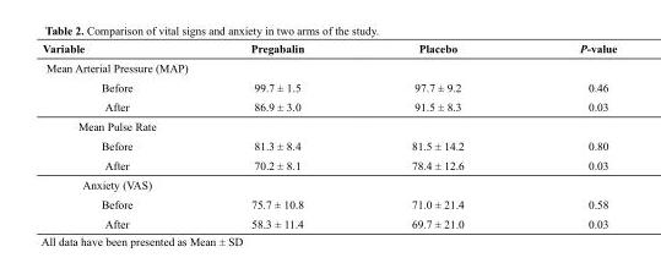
<table><thead><tr><td>Variable</td><td>Pregabalin</td><td>Placebo</td><td>P-value</td></tr></thead><tbody><tr><td colspan="4">Mean Arterial Pressure (MAP)</td></tr><tr><td>Before</td><td>99.7 ± 1.5</td><td>97.7 ± 9.2</td><td>0.46</td></tr><tr><td>After</td><td>86.9 ± 3.0</td><td>91.5 ± 8.3</td><td>0.03</td></tr><tr><td colspan="4">Mean Pulse Rate</td></tr><tr><td>Before</td><td>81.3 ± 8.4</td><td>81.5 ± 14.2</td><td>0.80</td></tr><tr><td>After</td><td>70.2 ± 8.1</td><td>78.4 ± 12.6</td><td>0.03</td></tr><tr><td colspan="4">Anxiety (VAS)</td></tr><tr><td>Before</td><td>75.7 ± 10.8</td><td>71.0 ± 21.4</td><td>0.58</td></tr><tr><td>After</td><td>58.3 ± 11.4</td><td>69.7 ± 21.0</td><td>0.03</td></tr></tbody></table>